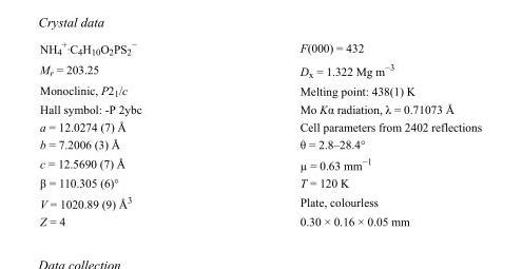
<table><tbody><tr><td>NH<sub>4</sub> <sup>+</sup>·C<sub>4</sub>H<sub>10</sub>O<sub>2</sub>PS<sub>2</sub> <sup>−</sup></td><td>F(000) = 432</td></tr><tr><td>M<sub>r</sub> = 203.25</td><td>D<sub>x</sub> = 1.322 Mg m<sup>−3</sup></td></tr><tr><td>Monoclinic, P2<sub>1</sub>/c</td><td>Melting point: 438(1) K</td></tr><tr><td>Hall symbol: -P 2ybc</td><td>Mo Kα radiation, λ = 0.71073 Å</td></tr><tr><td>a = 12.0274 (7) Å</td><td>Cell parameters from 2402 reflections</td></tr><tr><td>b = 7.2006 (3) Å</td><td>θ = 2.8–28.4°</td></tr><tr><td>c = 12.5690 (7) Å</td><td>µ = 0.63 mm<sup>−1</sup></td></tr><tr><td>β = 110.305 (6)°</td><td>T = 120 K</td></tr><tr><td>V = 1020.89 (9) Å<sup>3</sup></td><td>Plate, colourless</td></tr><tr><td>Z = 4</td><td>0.30 × 0.16 × 0.05 mm</td></tr></tbody></table>